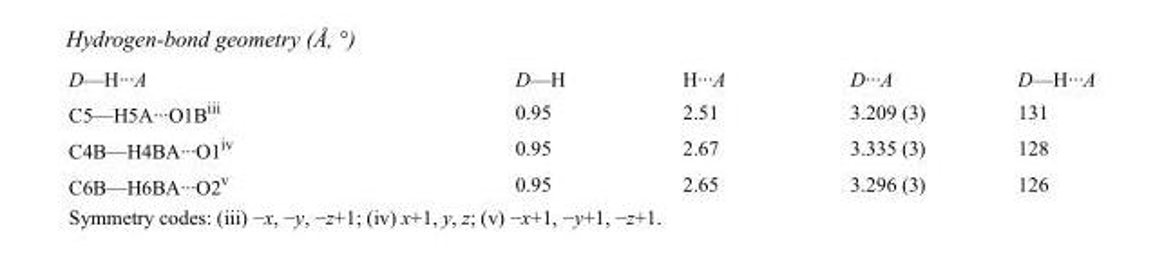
<table><tbody><tr><td>D—H···A</td><td>D—H</td><td>H···A</td><td>D···A</td><td>D—H···A</td></tr><tr><td>C5—H5A···O1B<sup>iii</sup></td><td>0.95</td><td>2.51</td><td>3.209 (3)</td><td>131</td></tr><tr><td>C4B—H4BA···O1<sup>iv</sup></td><td>0.95</td><td>2.67</td><td>3.335 (3)</td><td>128</td></tr><tr><td>C6B—H6BA···O2<sup>v</sup></td><td>0.95</td><td>2.65</td><td>3.296 (3)</td><td>126</td></tr></tbody></table>